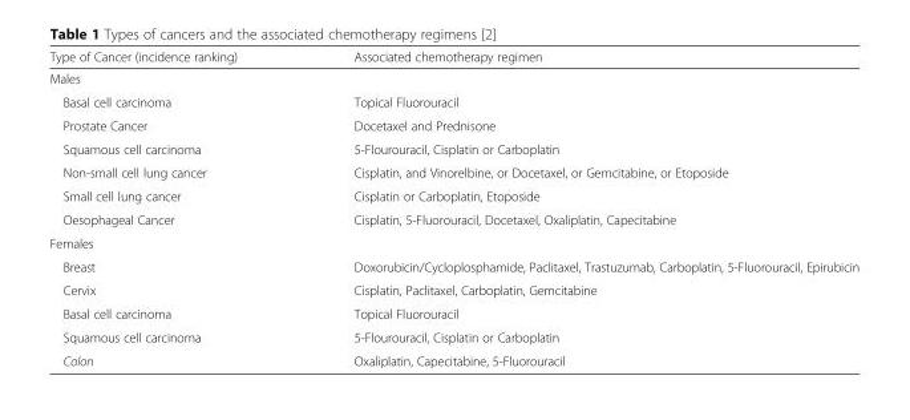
<table><thead><tr><td>Type of Cancer (incidence ranking)</td><td>Associated chemotherapy regimen</td></tr></thead><tbody><tr><td colspan="2">Males</td></tr><tr><td>Basal cell carcinoma</td><td>Topical Fluorouracil</td></tr><tr><td>Prostate Cancer</td><td>Docetaxel and Prednisone</td></tr><tr><td>Squamous cell carcinoma</td><td>5-Flourouracil, Cisplatin or Carboplatin</td></tr><tr><td>Non-small cell lung cancer</td><td>Cisplatin, and Vinorelbine, or Docetaxel, or Gemcitabine, or Etoposide</td></tr><tr><td>Small cell lung cancer</td><td>Cisplatin or Carboplatin, Etoposide</td></tr><tr><td>Oesophageal Cancer</td><td>Cisplatin, 5-Fluorouracil, Docetaxel, Oxaliplatin, Capecitabine</td></tr><tr><td colspan="2">Females</td></tr><tr><td>Breast</td><td>Doxorubicin/Cycloplosphamide, Paclitaxel, Trastuzumab, Carboplatin, 5-Fluorouracil, Epirubicin</td></tr><tr><td>Cervix</td><td>Cisplatin, Paclitaxel, Carboplatin, Gemcitabine</td></tr><tr><td>Basal cell carcinoma</td><td>Topical Fluorouracil</td></tr><tr><td>Squamous cell carcinoma</td><td>5-Flourouracil, Cisplatin or Carboplatin</td></tr><tr><td>Colon</td><td>Oxaliplatin, Capecitabine, 5-Fluorouracil</td></tr></tbody></table>